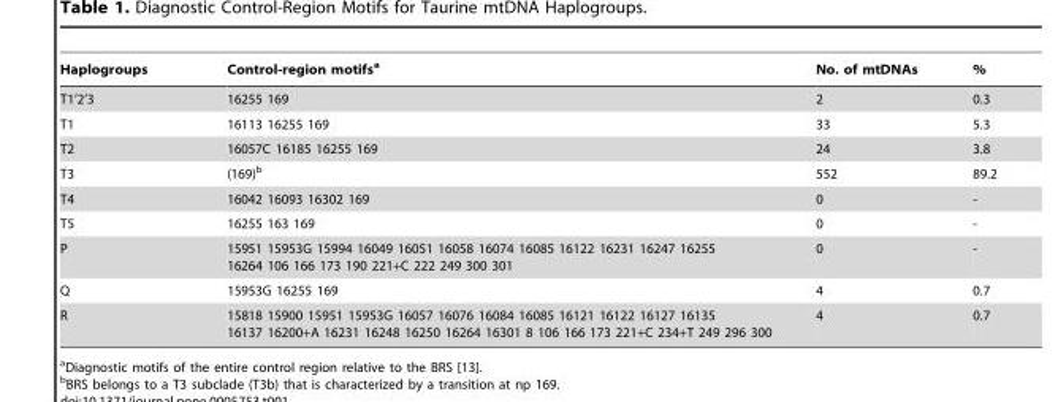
<table><thead><tr><td>Haplogroups</td><td>Control-region motifs<sup>a</sup></td><td>No. of mtDNAs</td><td>%</td></tr></thead><tbody><tr><td>T1’2’3</td><td>16255 169</td><td>2</td><td>0.3</td></tr><tr><td>T1</td><td>16113 16255 169</td><td>33</td><td>5.3</td></tr><tr><td>T2</td><td>16057C 16185 16255 169</td><td>24</td><td>3.8</td></tr><tr><td>T3</td><td>(169)<sup>b</sup></td><td>552</td><td>89.2</td></tr><tr><td>T4</td><td>16042 16093 16302 169</td><td>0</td><td>-</td></tr><tr><td>T5</td><td>16255 163 169</td><td>0</td><td>-</td></tr><tr><td>P</td><td>15951 15953G 15994 16049 16051 16058 16074 16085 16122 16231 16247 16255 16264 106 166 173 190 221+C 222 249 300 301</td><td>0</td><td>-</td></tr><tr><td>Q</td><td>15953G 16255 169</td><td>4</td><td>0.7</td></tr><tr><td>R</td><td>15818 15900 15951 15953G 16057 16076 16084 16085 16121 16122 16127 16135 16137 16200+A 16231 16248 16250 16264 16301 8 106 166 173 221+C 234+T 249 296 300</td><td>4</td><td>0.7</td></tr></tbody></table>